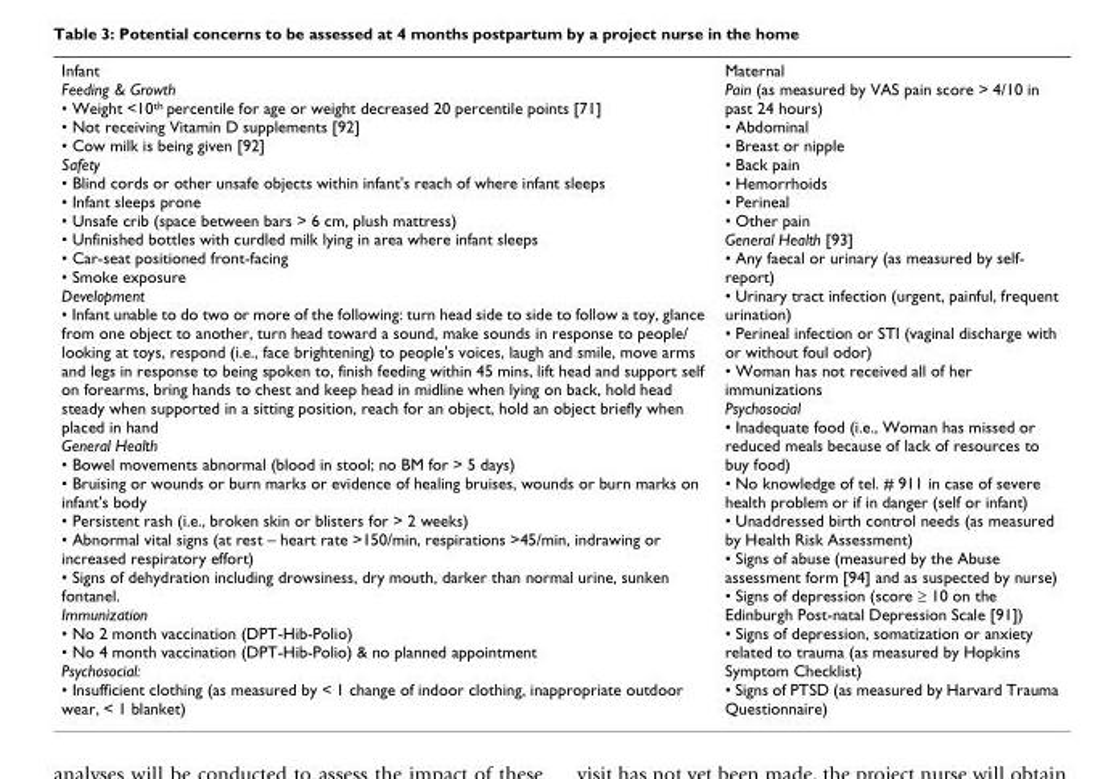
<table><tbody><tr><td>Infant Feeding &amp; Growth • Weight &lt;10<sup>th</sup> percentile for age or weight decreased 20 percentile points [71] • Not receiving Vitamin D supplements [92] • Cow milk is being given [92] Safety • Blind cords or other unsafe objects within infant&#x27;s reach of where infant sleeps • Infant sleeps prone • Unsafe crib (space between bars &gt; 6 cm, plush mattress) • Unfinished bottles with curdled milk lying in area where infant sleeps • Car-seat positioned front-facing • Smoke exposure Development • Infant unable to do two or more of the following: turn head side to side to follow a toy, glance from one object to another, turn head toward a sound, make sounds in response to people/ looking at toys, respond (i.e., face brightening) to people&#x27;s voices, laugh and smile, move arms and legs in response to being spoken to, finish feeding within 45 mins, lift head and support self on forearms, bring hands to chest and keep head in midline when lying on back, hold head steady when supported in a sitting position, reach for an object, hold an object briefly when placed in hand General Health • Bowel movements abnormal (blood in stool; no BM for &gt; 5 days) • Bruising or wounds or burn marks or evidence of healing bruises, wounds or burn marks on infant&#x27;s body • Persistent rash (i.e., broken skin or blisters for &gt; 2 weeks) • Abnormal vital signs (at rest – heart rate &gt;150/min, respirations &gt;45/min, indrawing or increased respiratory effort) • Signs of dehydration including drowsiness, dry mouth, darker than normal urine, sunken fontanel. Immunization • No 2 month vaccination (DPT-Hib-Polio) • No 4 month vaccination (DPT-Hib-Polio) &amp; no planned appointment Psychosocial: • Insufficient clothing (as measured by &lt; 1 change of indoor clothing, inappropriate outdoor wear, &lt; 1 blanket)</td><td>Maternal Pain (as measured by VAS pain score &gt; 4/10 in past 24 hours) • Abdominal • Breast or nipple • Back pain • Hemorrhoids • Perineal • Other pain General Health [93] • Any faecal or urinary (as measured by self- report) • Urinary tract infection (urgent, painful, frequent urination) • Perineal infection or STI (vaginal discharge with or without foul odor) • Woman has not received all of her immunizations Psychosocial • Inadequate food (i.e., Woman has missed or reduced meals because of lack of resources to buy food) • No knowledge of tel. # 911 in case of severe health problem or if in danger (self or infant) • Unaddressed birth control needs (as measured by Health Risk Assessment) • Signs of abuse (measured by the Abuse assessment form [94] and as suspected by nurse) • Signs of depression (score ≥ 10 on the Edinburgh Post-natal Depression Scale [91]) • Signs of depression, somatization or anxiety related to trauma (as measured by Hopkins Symptom Checklist) • Signs of PTSD (as measured by Harvard Trauma Questionnaire)</td></tr></tbody></table>